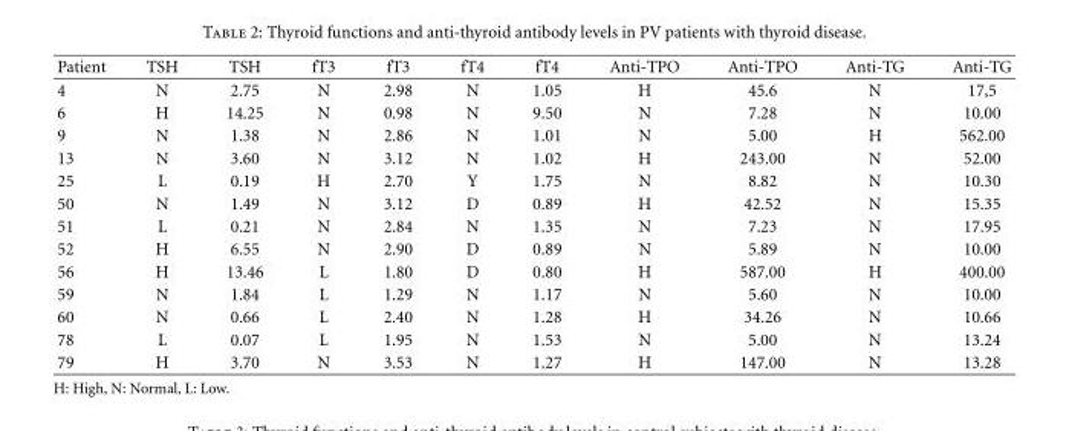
<table><thead><tr><td>Patient</td><td>TSH</td><td>TSH</td><td>fT3</td><td>fT3</td><td>fT4</td><td>fT4</td><td>Anti-TPO</td><td>Anti-TPO</td><td>Anti-TG</td><td>Anti-TG</td></tr></thead><tbody><tr><td>4</td><td>N</td><td>2.75</td><td>N</td><td>2.98</td><td>N</td><td>1.05</td><td>H</td><td>45.6</td><td>N</td><td>17,5</td></tr><tr><td>6</td><td>H</td><td>14.25</td><td>N</td><td>0.98</td><td>N</td><td>9.50</td><td>N</td><td>7.28</td><td>N</td><td>10.00</td></tr><tr><td>9</td><td>N</td><td>1.38</td><td>N</td><td>2.86</td><td>N</td><td>1.01</td><td>N</td><td>5.00</td><td>H</td><td>562.00</td></tr><tr><td>13</td><td>N</td><td>3.60</td><td>N</td><td>3.12</td><td>N</td><td>1.02</td><td>H</td><td>243.00</td><td>N</td><td>52.00</td></tr><tr><td>25</td><td>L</td><td>0.19</td><td>H</td><td>2.70</td><td>Y</td><td>1.75</td><td>N</td><td>8.82</td><td>N</td><td>10.30</td></tr><tr><td>50</td><td>N</td><td>1.49</td><td>N</td><td>3.12</td><td>D</td><td>0.89</td><td>H</td><td>42.52</td><td>N</td><td>15.35</td></tr><tr><td>51</td><td>L</td><td>0.21</td><td>N</td><td>2.84</td><td>N</td><td>1.35</td><td>N</td><td>7.23</td><td>N</td><td>17.95</td></tr><tr><td>52</td><td>H</td><td>6.55</td><td>N</td><td>2.90</td><td>D</td><td>0.89</td><td>N</td><td>5.89</td><td>N</td><td>10.00</td></tr><tr><td>56</td><td>H</td><td>13.46</td><td>L</td><td>1.80</td><td>D</td><td>0.80</td><td>H</td><td>587.00</td><td>H</td><td>400.00</td></tr><tr><td>59</td><td>N</td><td>1.84</td><td>L</td><td>1.29</td><td>N</td><td>1.17</td><td>N</td><td>5.60</td><td>N</td><td>10.00</td></tr><tr><td>60</td><td>N</td><td>0.66</td><td>L</td><td>2.40</td><td>N</td><td>1.28</td><td>H</td><td>34.26</td><td>N</td><td>10.66</td></tr><tr><td>78</td><td>L</td><td>0.07</td><td>L</td><td>1.95</td><td>N</td><td>1.53</td><td>N</td><td>5.00</td><td>N</td><td>13.24</td></tr><tr><td>79</td><td>H</td><td>3.70</td><td>N</td><td>3.53</td><td>N</td><td>1.27</td><td>H</td><td>147.00</td><td>N</td><td>13.28</td></tr></tbody></table>